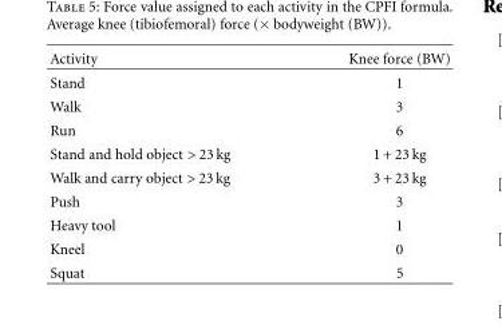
<table><thead><tr><td>Activity</td><td>Knee force (BW)</td></tr></thead><tbody><tr><td>Stand</td><td>1</td></tr><tr><td>Walk</td><td>3</td></tr><tr><td>Run</td><td>6</td></tr><tr><td>Stand and hold object &gt; 23 kg</td><td>1 + 23 kg</td></tr><tr><td>Walk and carry object &gt; 23 kg</td><td>3 + 23 kg</td></tr><tr><td>Push</td><td>3</td></tr><tr><td>Heavy tool</td><td>1</td></tr><tr><td>Kneel</td><td>0</td></tr><tr><td>Squat</td><td>5</td></tr></tbody></table>